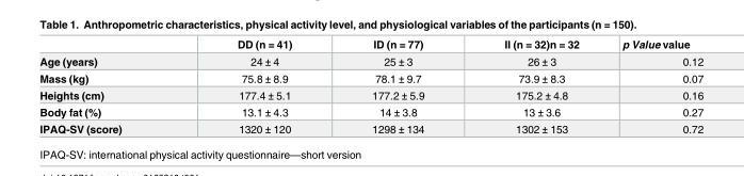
<table><thead><tr><td></td><td>DD (n = 41)</td><td>ID (n = 77)</td><td>II (n = 32)n = 32</td><td>p Value value</td></tr></thead><tbody><tr><td>Age (years)</td><td>24 ± 4</td><td>25 ± 3</td><td>26 ± 3</td><td>0.12</td></tr><tr><td>Mass (kg)</td><td>75.8 ± 8.9</td><td>78.1 ± 9.7</td><td>73.9 ± 8.3</td><td>0.07</td></tr><tr><td>Heights (cm)</td><td>177.4 ± 5.1</td><td>177.2 ± 5.9</td><td>175.2 ± 4.8</td><td>0.16</td></tr><tr><td>Body fat (%)</td><td>13.1 ± 4.3</td><td>14 ± 3.8</td><td>13 ± 3.6</td><td>0.27</td></tr><tr><td>IPAQ-SV (score)</td><td>1320 ± 120</td><td>1298 ± 134</td><td>1302 ± 153</td><td>0.72</td></tr></tbody></table>